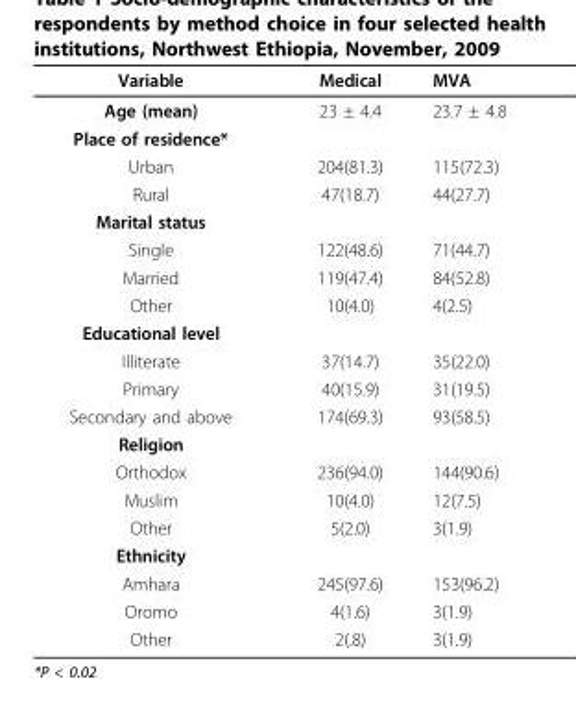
<table><thead><tr><td>Variable</td><td>Medical</td><td>MVA</td></tr></thead><tbody><tr><td>Age (mean)</td><td>23 ± 4.4</td><td>23.7 ± 4.8</td></tr><tr><td colspan="3">Place of residence*</td></tr><tr><td>Urban</td><td>204(81.3)</td><td>115(72.3)</td></tr><tr><td>Rural</td><td>47(18.7)</td><td>44(27.7)</td></tr><tr><td colspan="3">Marital status</td></tr><tr><td>Single</td><td>122(48.6)</td><td>71(44.7)</td></tr><tr><td>Married</td><td>119(47.4)</td><td>84(52.8)</td></tr><tr><td>Other</td><td>10(4.0)</td><td>4(2.5)</td></tr><tr><td colspan="3">Educational level</td></tr><tr><td>Illiterate</td><td>37(14.7)</td><td>35(22.0)</td></tr><tr><td>Primary</td><td>40(15.9)</td><td>31(19.5)</td></tr><tr><td>Secondary and above</td><td>174(69.3)</td><td>93(58.5)</td></tr><tr><td colspan="3">Religion</td></tr><tr><td>Orthodox</td><td>236(94.0)</td><td>144(90.6)</td></tr><tr><td>Muslim</td><td>10(4.0)</td><td>12(7.5)</td></tr><tr><td>Other</td><td>5(2.0)</td><td>3(1.9)</td></tr><tr><td colspan="3">Ethnicity</td></tr><tr><td>Amhara</td><td>245(97.6)</td><td>153(96.2)</td></tr><tr><td>Oromo</td><td>4(1.6)</td><td>3(1.9)</td></tr><tr><td>Other</td><td>2(.8)</td><td>3(1.9)</td></tr></tbody></table>